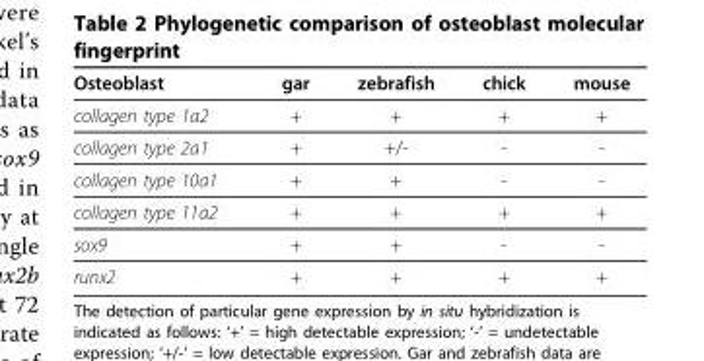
<table><thead><tr><td>Osteoblast</td><td>gar</td><td>zebrafish</td><td>chick</td><td>mouse</td></tr></thead><tbody><tr><td>collagen type 1a2</td><td>+</td><td>+</td><td>+</td><td>+</td></tr><tr><td>collagen type 2a1</td><td>+</td><td>+/-</td><td>-</td><td>-</td></tr><tr><td>collagen type 10a1</td><td>+</td><td>+</td><td>-</td><td>-</td></tr><tr><td>collagen type 11a2</td><td>+</td><td>+</td><td>+</td><td>+</td></tr><tr><td>sox9</td><td>+</td><td>+</td><td>-</td><td>-</td></tr><tr><td>runx2</td><td>+</td><td>+</td><td>+</td><td>+</td></tr></tbody></table>